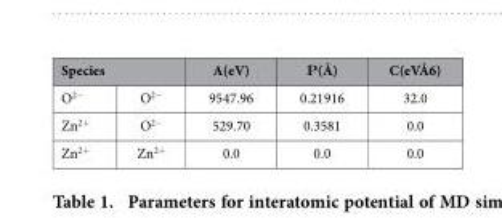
<table><thead><tr><td colspan="2">Species</td><td rowspan="2">A(eV) 9547.96</td><td rowspan="2">Ρ(Å) 0.21916</td><td rowspan="2">C(eVÅ6) 32.0</td></tr><tr><td>O<sup>2−</sup></td><td>O<sup>2−</sup></td></tr></thead><tbody><tr><td>Zn<sup>2+</sup></td><td>O<sup>2−</sup></td><td>529.70</td><td>0.3581</td><td>0.0</td></tr><tr><td>Zn<sup>2+</sup></td><td>Zn<sup>2+</sup></td><td>0.0</td><td>0.0</td><td>0.0</td></tr></tbody></table>